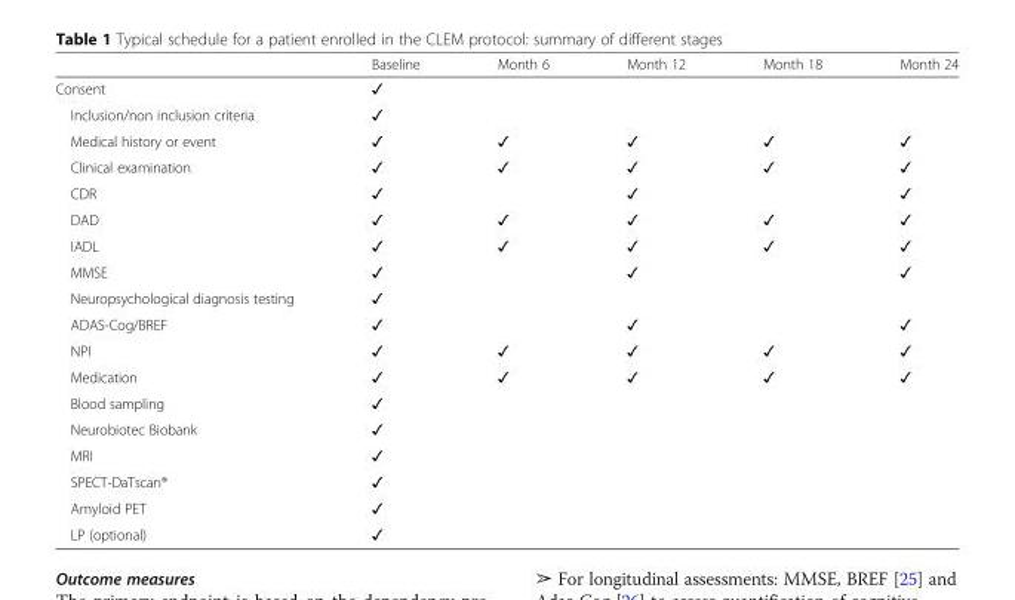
<table><thead><tr><td></td><td>Baseline</td><td>Month 6</td><td>Month 12</td><td>Month 18</td><td>Month 24</td></tr></thead><tbody><tr><td>Consent</td><td>✓</td><td></td><td></td><td></td><td></td></tr><tr><td>Inclusion/non inclusion criteria</td><td>✓</td><td></td><td></td><td></td><td></td></tr><tr><td>Medical history or event</td><td>✓</td><td>✓</td><td>✓</td><td>✓</td><td>✓</td></tr><tr><td>Clinical examination</td><td>✓</td><td>✓</td><td>✓</td><td>✓</td><td>✓</td></tr><tr><td>CDR</td><td>✓</td><td></td><td>✓</td><td></td><td>✓</td></tr><tr><td>DAD</td><td>✓</td><td>✓</td><td>✓</td><td>✓</td><td>✓</td></tr><tr><td>IADL</td><td>✓</td><td>✓</td><td>✓</td><td>✓</td><td>✓</td></tr><tr><td>MMSE</td><td>✓</td><td></td><td>✓</td><td></td><td>✓</td></tr><tr><td>Neuropsychological diagnosis testing</td><td>✓</td><td></td><td></td><td></td><td></td></tr><tr><td>ADAS-Cog/BREF</td><td>✓</td><td></td><td>✓</td><td></td><td>✓</td></tr><tr><td>NPI</td><td>✓</td><td>✓</td><td>✓</td><td>✓</td><td>✓</td></tr><tr><td>Medication</td><td>✓</td><td>✓</td><td>✓</td><td>✓</td><td>✓</td></tr><tr><td>Blood sampling</td><td>✓</td><td></td><td></td><td></td><td></td></tr><tr><td>Neurobiotec Biobank</td><td>✓</td><td></td><td></td><td></td><td></td></tr><tr><td>MRI</td><td>✓</td><td></td><td></td><td></td><td></td></tr><tr><td>SPECT-DaTscan®</td><td>✓</td><td></td><td></td><td></td><td></td></tr><tr><td>Amyloid PET</td><td>✓</td><td></td><td></td><td></td><td></td></tr><tr><td>LP (optional)</td><td>✓</td><td></td><td></td><td></td><td></td></tr></tbody></table>